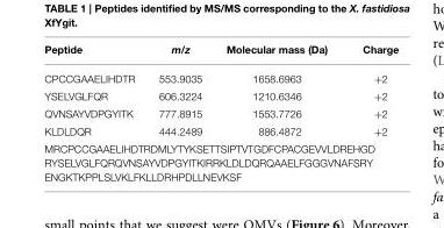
<table><thead><tr><td>Peptide</td><td>m/z</td><td>Molecular mass (Da)</td><td>Charge</td></tr></thead><tbody><tr><td>CPCCGAAELIHDTR</td><td>553.9035</td><td>1658.6963</td><td>+2</td></tr><tr><td>YSELVGLFQR</td><td>606.3224</td><td>1210.6346</td><td>+2</td></tr><tr><td>QVNSAYVDPGYITK</td><td>777.8915</td><td>1553.7726</td><td>+2</td></tr><tr><td>KLDLDQR</td><td>444.2489</td><td>886.4872</td><td>+2</td></tr><tr><td colspan="4">MRCPCCGAAELIHDTRDMLYTYKSETTSIPTVTGDFCPACGEVVLDREHGD RYSELVGLFQRQVNSAYVDPGYITKIRRKLDLDQRQAAELFGGGVNAFSRY ENGKTKPPLSLVKLFKLLDRHPDLLNEVKSF</td></tr></tbody></table>